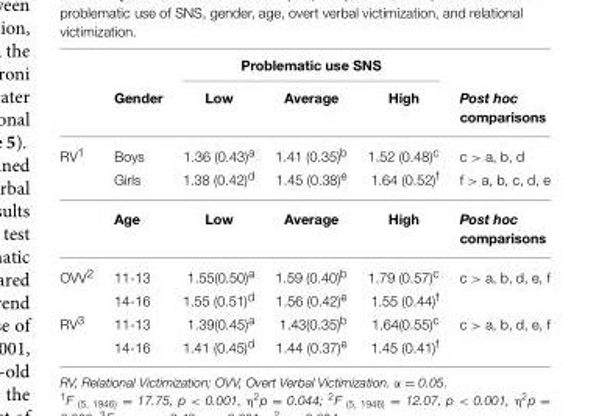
<table><thead><tr><td rowspan="2"></td><td rowspan="2">Gender</td><td colspan="3">Problematic use SNS</td><td rowspan="2">Post hoc comparisons</td></tr><tr><td>Low</td><td>Average</td><td>High</td></tr></thead><tbody><tr><td rowspan="3">RV<sup>1</sup></td><td>Boys</td><td>1.36 (0.43)<sup>a</sup></td><td>1.41 (0.35)<sup>b</sup></td><td>1.52 (0.48)<sup>c</sup></td><td>c &gt; a, b, d</td></tr><tr><td>Girls</td><td>1.38 (0.42)<sup>d</sup></td><td>1.45 (0.38)<sup>e</sup></td><td>1.64 (0.52)<sup>f</sup></td><td>f &gt; a, b, c, d, e</td></tr><tr><td>Age</td><td>Low</td><td>Average</td><td>High</td><td>Post hoc comparisons</td></tr><tr><td rowspan="2">OVV<sup>2</sup></td><td>11-13</td><td>1.55(0.50)<sup>a</sup></td><td>1.59 (0.40)<sup>b</sup></td><td>1.79 (0.57)<sup>c</sup></td><td>c &gt; a, b, d, e, f</td></tr><tr><td>14-16</td><td>1.55 (0.51)<sup>d</sup></td><td>1.56 (0.42)<sup>e</sup></td><td>1.55 (0.44)<sup>f</sup></td><td></td></tr><tr><td rowspan="2">RV<sup>3</sup></td><td>11-13</td><td>1.39(0.45)<sup>a</sup></td><td>1.43(0.35)<sup>b</sup></td><td>1.64(0.55)<sup>c</sup></td><td>c &gt; a, b, d, e, f</td></tr><tr><td>14-16</td><td>1.41 (0.45)<sup>d</sup></td><td>1.44 (0.37)<sup>e</sup></td><td>1.45 (0.41)<sup>f</sup></td><td></td></tr></tbody></table>